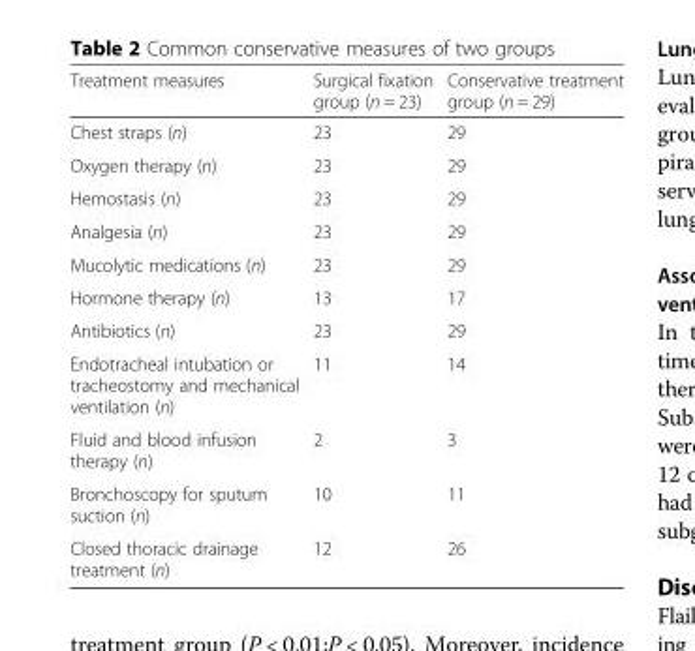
<table><thead><tr><td>Treatment measures</td><td>Surgical fixation group (n = 23)</td><td>Conservative treatment group (n = 29)</td></tr></thead><tbody><tr><td>Chest straps (n)</td><td>23</td><td>29</td></tr><tr><td>Oxygen therapy (n)</td><td>23</td><td>29</td></tr><tr><td>Hemostasis (n)</td><td>23</td><td>29</td></tr><tr><td>Analgesia (n)</td><td>23</td><td>29</td></tr><tr><td>Mucolytic medications (n)</td><td>23</td><td>29</td></tr><tr><td>Hormone therapy (n)</td><td>13</td><td>17</td></tr><tr><td>Antibiotics (n)</td><td>23</td><td>29</td></tr><tr><td>Endotracheal intubation or tracheostomy and mechanical ventilation (n)</td><td>11</td><td>14</td></tr><tr><td>Fluid and blood infusion therapy (n)</td><td>2</td><td>3</td></tr><tr><td>Bronchoscopy for sputum suction (n)</td><td>10</td><td>11</td></tr><tr><td>Closed thoracic drainage treatment (n)</td><td>12</td><td>26</td></tr></tbody></table>